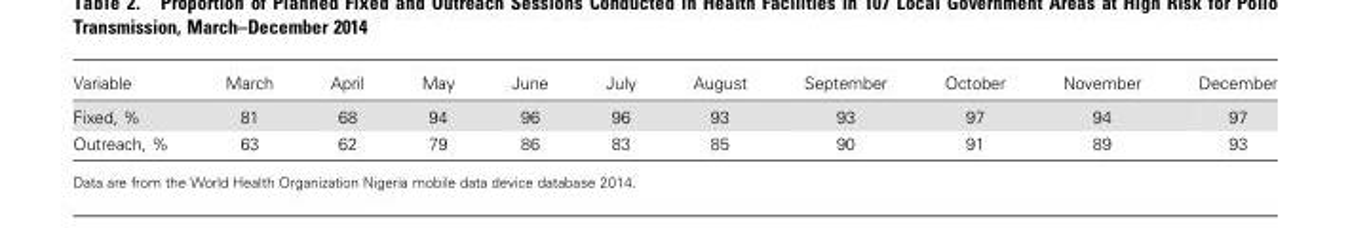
<table><thead><tr><td>Variable</td><td>March</td><td>April</td><td>May</td><td>June</td><td>July</td><td>August</td><td>September</td><td>October</td><td>November</td><td>December</td></tr></thead><tbody><tr><td>Fixed, %</td><td>81</td><td>68</td><td>94</td><td>96</td><td>96</td><td>93</td><td>93</td><td>97</td><td>94</td><td>97</td></tr><tr><td>Outreach, %</td><td>63</td><td>62</td><td>79</td><td>86</td><td>83</td><td>85</td><td>90</td><td>91</td><td>89</td><td>93</td></tr></tbody></table>